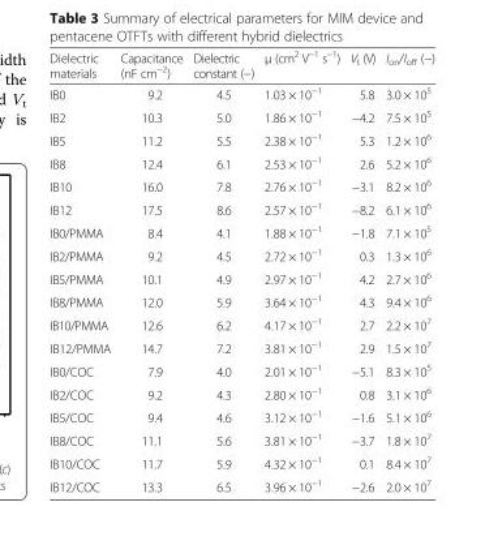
<table><thead><tr><td>Dielectric materials</td><td>Capacitance (nF cm<sup>−2</sup>)</td><td>Dielectric constant (−)</td><td>μ (cm<sup>2</sup> V<sup>−1</sup> s<sup>−1</sup>)</td><td>V<sub>t</sub> (V)</td><td>I<sub>on</sub>/I<sub>off</sub> (−)</td></tr></thead><tbody><tr><td>IB0</td><td>9.2</td><td>4.5</td><td>1.03 × 10<sup>−1</sup></td><td>5.8</td><td>3.0 × 10<sup>5</sup></td></tr><tr><td>IB2</td><td>10.3</td><td>5.0</td><td>1.86 × 10<sup>−1</sup></td><td>−4.2</td><td>7.5 × 10<sup>5</sup></td></tr><tr><td>IB5</td><td>11.2</td><td>5.5</td><td>2.38 × 10<sup>−1</sup></td><td>5.3</td><td>1.2 × 10<sup>6</sup></td></tr><tr><td>IB8</td><td>12.4</td><td>6.1</td><td>2.53 × 10<sup>−1</sup></td><td>2.6</td><td>5.2 × 10<sup>6</sup></td></tr><tr><td>IB10</td><td>16.0</td><td>7.8</td><td>2.76 × 10<sup>−1</sup></td><td>−3.1</td><td>8.2 × 10<sup>6</sup></td></tr><tr><td>IB12</td><td>17.5</td><td>8.6</td><td>2.57 × 10<sup>−1</sup></td><td>−8.2</td><td>6.1 × 10<sup>6</sup></td></tr><tr><td>IB0/PMMA</td><td>8.4</td><td>4.1</td><td>1.88 × 10<sup>−1</sup></td><td>−1.8</td><td>7.1 × 10<sup>5</sup></td></tr><tr><td>IB2/PMMA</td><td>9.2</td><td>4.5</td><td>2.72 × 10<sup>−1</sup></td><td>0.3</td><td>1.3 × 10<sup>6</sup></td></tr><tr><td>IB5/PMMA</td><td>10.1</td><td>4.9</td><td>2.97 × 10<sup>−1</sup></td><td>4.2</td><td>2.7 × 10<sup>6</sup></td></tr><tr><td>IB8/PMMA</td><td>12.0</td><td>5.9</td><td>3.64 × 10<sup>−1</sup></td><td>4.3</td><td>9.4 × 10<sup>6</sup></td></tr><tr><td>IB10/PMMA</td><td>12.6</td><td>6.2</td><td>4.17 × 10<sup>−1</sup></td><td>2.7</td><td>2.2 × 10<sup>7</sup></td></tr><tr><td>IB12/PMMA</td><td>14.7</td><td>7.2</td><td>3.81 × 10<sup>−1</sup></td><td>2.9</td><td>1.5 × 10<sup>7</sup></td></tr><tr><td>IB0/COC</td><td>7.9</td><td>4.0</td><td>2.01 × 10<sup>−1</sup></td><td>−5.1</td><td>8.3 × 10<sup>5</sup></td></tr><tr><td>IB2/COC</td><td>9.2</td><td>4.3</td><td>2.80 × 10<sup>−1</sup></td><td>0.8</td><td>3.1 × 10<sup>6</sup></td></tr><tr><td>IB5/COC</td><td>9.4</td><td>4.6</td><td>3.12 × 10<sup>−1</sup></td><td>−1.6</td><td>5.1 × 10<sup>6</sup></td></tr><tr><td>IB8/COC</td><td>11.1</td><td>5.6</td><td>3.81 × 10<sup>−1</sup></td><td>−3.7</td><td>1.8 × 10<sup>7</sup></td></tr><tr><td>IB10/COC</td><td>11.7</td><td>5.9</td><td>4.32 × 10<sup>−1</sup></td><td>0.1</td><td>8.4 × 10<sup>7</sup></td></tr><tr><td>IB12/COC</td><td>13.3</td><td>6.5</td><td>3.96 × 10<sup>−1</sup></td><td>−2.6</td><td>2.0 × 10<sup>7</sup></td></tr></tbody></table>